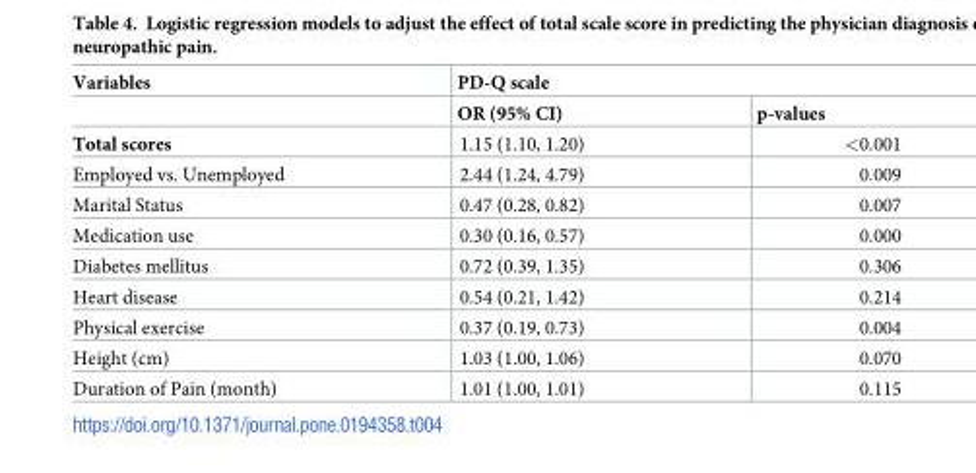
<table><thead><tr><td rowspan="2">Variables</td><td colspan="2">PD-Q scale</td></tr><tr><td>OR (95% CI)</td><td>p-values</td></tr></thead><tbody><tr><td>Total scores</td><td>1.15 (1.10, 1.20)</td><td>&lt;0.001</td></tr><tr><td>Employed vs. Unemployed</td><td>2.44 (1.24, 4.79)</td><td>0.009</td></tr><tr><td>Marital Status</td><td>0.47 (0.28, 0.82)</td><td>0.007</td></tr><tr><td>Medication use</td><td>0.30 (0.16, 0.57)</td><td>0.000</td></tr><tr><td>Diabetes mellitus</td><td>0.72 (0.39, 1.35)</td><td>0.306</td></tr><tr><td>Heart disease</td><td>0.54 (0.21, 1.42)</td><td>0.214</td></tr><tr><td>Physical exercise</td><td>0.37 (0.19, 0.73)</td><td>0.004</td></tr><tr><td>Height (cm)</td><td>1.03 (1.00, 1.06)</td><td>0.070</td></tr><tr><td>Duration of Pain (month)</td><td>1.01 (1.00, 1.01)</td><td>0.115</td></tr></tbody></table>